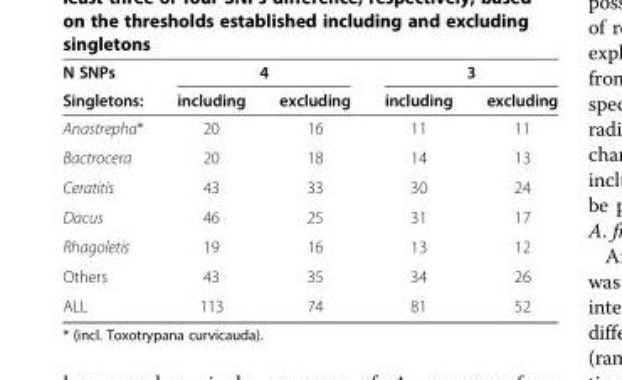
<table><thead><tr><td rowspan="2">N SNPs Singletons:</td><td colspan="2">4</td><td colspan="2">3</td></tr><tr><td>including</td><td>excluding</td><td>including</td><td>excluding</td></tr></thead><tbody><tr><td>Anastrepha*</td><td>20</td><td>16</td><td>11</td><td>11</td></tr><tr><td>Bactrocera</td><td>20</td><td>18</td><td>14</td><td>13</td></tr><tr><td>Ceratitis</td><td>43</td><td>33</td><td>30</td><td>24</td></tr><tr><td>Dacus</td><td>46</td><td>25</td><td>31</td><td>17</td></tr><tr><td>Rhagoletis</td><td>19</td><td>16</td><td>13</td><td>12</td></tr><tr><td>Others</td><td>43</td><td>35</td><td>34</td><td>26</td></tr><tr><td>ALL</td><td>113</td><td>74</td><td>81</td><td>52</td></tr></tbody></table>